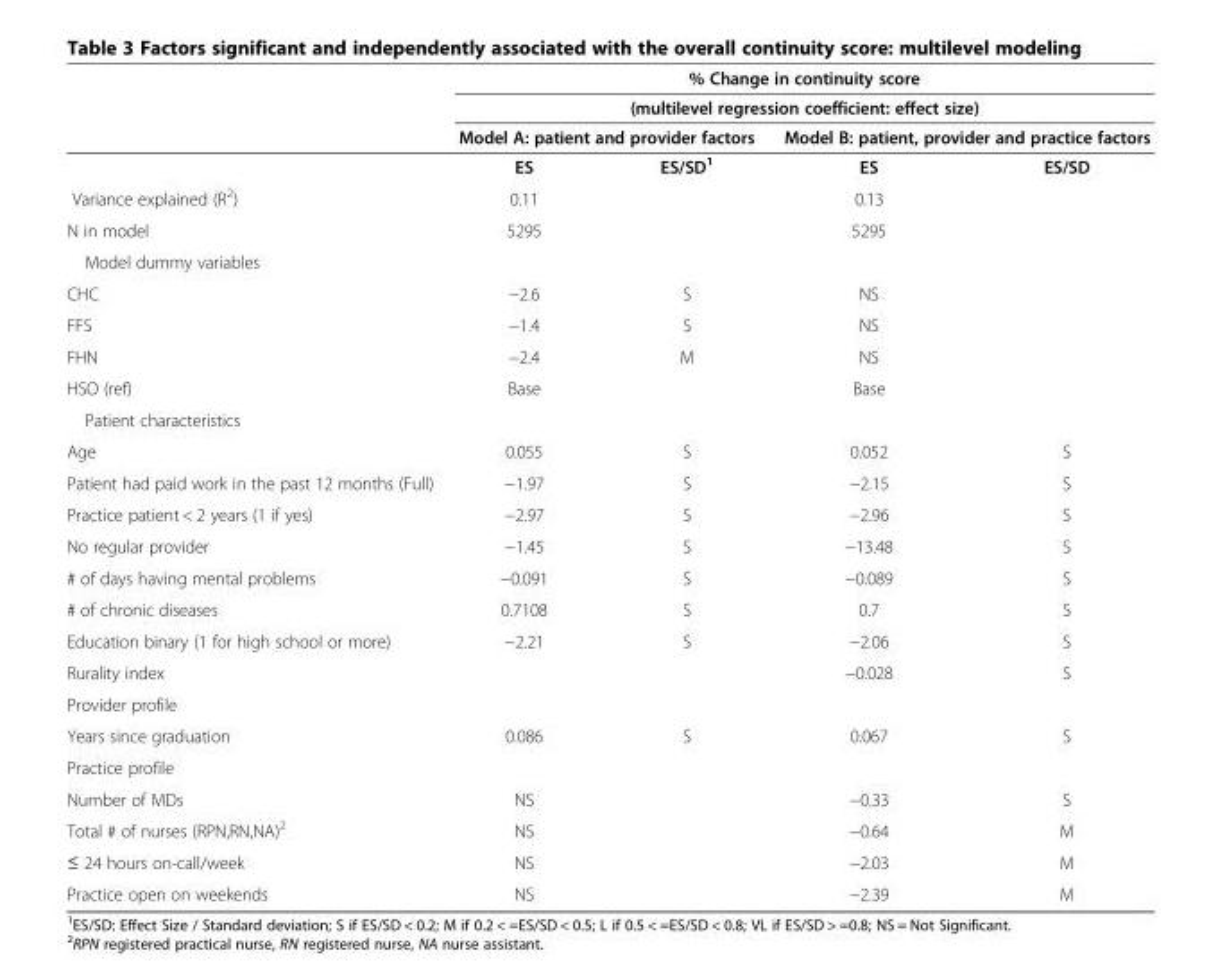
<table><thead><tr><td rowspan="4"></td><td rowspan="2" colspan="4">% Change in continuity score (multilevel regression coefficient: effect size)</td></tr><tr></tr><tr><td colspan="2">Model A: patient and provider factors</td><td colspan="2">Model B: patient, provider and practice factors</td></tr><tr><td>ES</td><td>ES/SD<sup>1</sup></td><td>ES</td><td>ES/SD</td></tr></thead><tbody><tr><td>Variance explained (R<sup>2</sup>)</td><td>0.11</td><td></td><td>0.13</td><td></td></tr><tr><td>N in model</td><td>5295</td><td></td><td>5295</td><td></td></tr><tr><td colspan="5">Model dummy variables</td></tr><tr><td>CHC</td><td>−2.6</td><td>S</td><td>NS</td><td></td></tr><tr><td>FFS</td><td>−1.4</td><td>S</td><td>NS</td><td></td></tr><tr><td>FHN</td><td>−2.4</td><td>M</td><td>NS</td><td></td></tr><tr><td>HSO (ref)</td><td>Base</td><td></td><td>Base</td><td></td></tr><tr><td colspan="5">Patient characteristics</td></tr><tr><td>Age</td><td>0.055</td><td>S</td><td>0.052</td><td>S</td></tr><tr><td>Patient had paid work in the past 12 months (Full)</td><td>−1.97</td><td>S</td><td>−2.15</td><td>S</td></tr><tr><td>Practice patient &lt; 2 years (1 if yes)</td><td>−2.97</td><td>S</td><td>−2.96</td><td>S</td></tr><tr><td>No regular provider</td><td>−1.45</td><td>S</td><td>−13.48</td><td>S</td></tr><tr><td># of days having mental problems</td><td>−0.091</td><td>S</td><td>−0.089</td><td>S</td></tr><tr><td># of chronic diseases</td><td>0.7108</td><td>S</td><td>0.7</td><td>S</td></tr><tr><td>Education binary (1 for high school or more)</td><td>−2.21</td><td>S</td><td>−2.06</td><td>S</td></tr><tr><td>Rurality index</td><td></td><td></td><td>−0.028</td><td>S</td></tr><tr><td colspan="5">Provider profile</td></tr><tr><td>Years since graduation</td><td>0.086</td><td>S</td><td>0.067</td><td>S</td></tr><tr><td colspan="5">Practice profile</td></tr><tr><td>Number of MDs</td><td>NS</td><td></td><td>−0.33</td><td>S</td></tr><tr><td>Total # of nurses (RPN,RN,NA)<sup>2</sup></td><td>NS</td><td></td><td>−0.64</td><td>M</td></tr><tr><td>≤ 24 hours on-call/week</td><td>NS</td><td></td><td>−2.03</td><td>M</td></tr><tr><td>Practice open on weekends</td><td>NS</td><td></td><td>−2.39</td><td>M</td></tr></tbody></table>